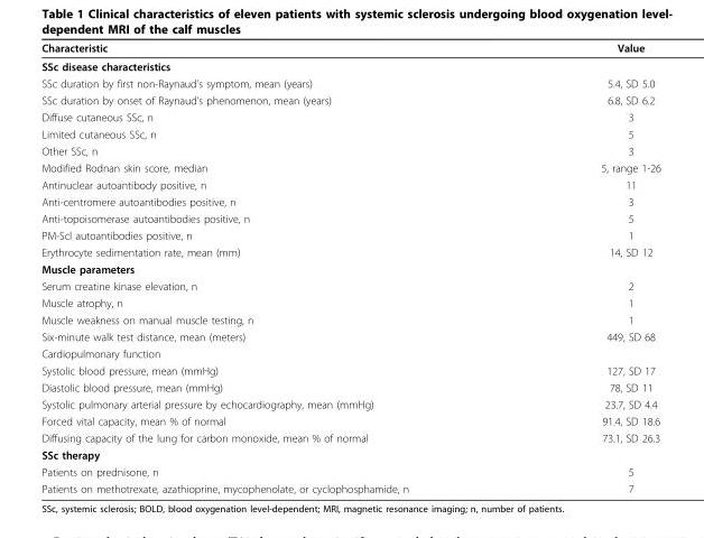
<table><thead><tr><td>Characteristic</td><td>Value</td></tr></thead><tbody><tr><td colspan="2">SSc disease characteristics</td></tr><tr><td>SSc duration by first non-Raynaud’s symptom, mean (years)</td><td>5.4, SD 5.0</td></tr><tr><td>SSc duration by onset of Raynaud’s phenomenon, mean (years)</td><td>6.8, SD 6.2</td></tr><tr><td>Diffuse cutaneous SSc, n</td><td>3</td></tr><tr><td>Limited cutaneous SSc, n</td><td>5</td></tr><tr><td>Other SSc, n</td><td>3</td></tr><tr><td>Modified Rodnan skin score, median</td><td>5, range 1-26</td></tr><tr><td>Antinuclear autoantibody positive, n</td><td>11</td></tr><tr><td>Anti-centromere autoantibodies positive, n</td><td>3</td></tr><tr><td>Anti-topoisomerase autoantibodies positive, n</td><td>5</td></tr><tr><td>PM-Scl autoantibodies positive, n</td><td>1</td></tr><tr><td>Erythrocyte sedimentation rate, mean (mm)</td><td>14, SD 12</td></tr><tr><td colspan="2">Muscle parameters</td></tr><tr><td>Serum creatine kinase elevation, n</td><td>2</td></tr><tr><td>Muscle atrophy, n</td><td>1</td></tr><tr><td>Muscle weakness on manual muscle testing, n</td><td>1</td></tr><tr><td>Six-minute walk test distance, mean (meters)</td><td>449, SD 68</td></tr><tr><td colspan="2">Cardiopulmonary function</td></tr><tr><td>Systolic blood pressure, mean (mmHg)</td><td>127, SD 17</td></tr><tr><td>Diastolic blood pressure, mean (mmHg)</td><td>78, SD 11</td></tr><tr><td>Systolic pulmonary arterial pressure by echocardiography, mean (mmHg)</td><td>23.7, SD 4.4</td></tr><tr><td>Forced vital capacity, mean % of normal</td><td>91.4, SD 18.6</td></tr><tr><td>Diffusing capacity of the lung for carbon monoxide, mean % of normal</td><td>73.1, SD 26.3</td></tr><tr><td colspan="2">SSc therapy</td></tr><tr><td>Patients on prednisone, n</td><td>5</td></tr><tr><td>Patients on methotrexate, azathioprine, mycophenolate, or cyclophosphamide, n</td><td>7</td></tr></tbody></table>